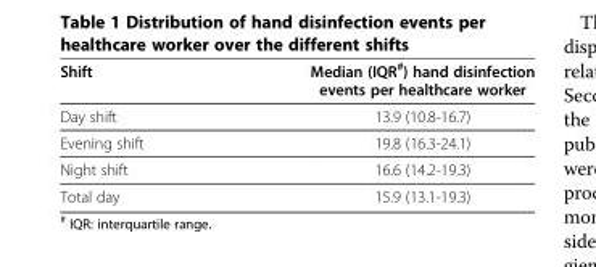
<table><thead><tr><td>Shift</td><td>Median (IQR<sup>#</sup>) hand disinfection events per healthcare worker</td></tr></thead><tbody><tr><td>Day shift</td><td>13.9 (10.8-16.7)</td></tr><tr><td>Evening shift</td><td>19.8 (16.3-24.1)</td></tr><tr><td>Night shift</td><td>16.6 (14.2-19.3)</td></tr><tr><td>Total day</td><td>15.9 (13.1-19.3)</td></tr></tbody></table>